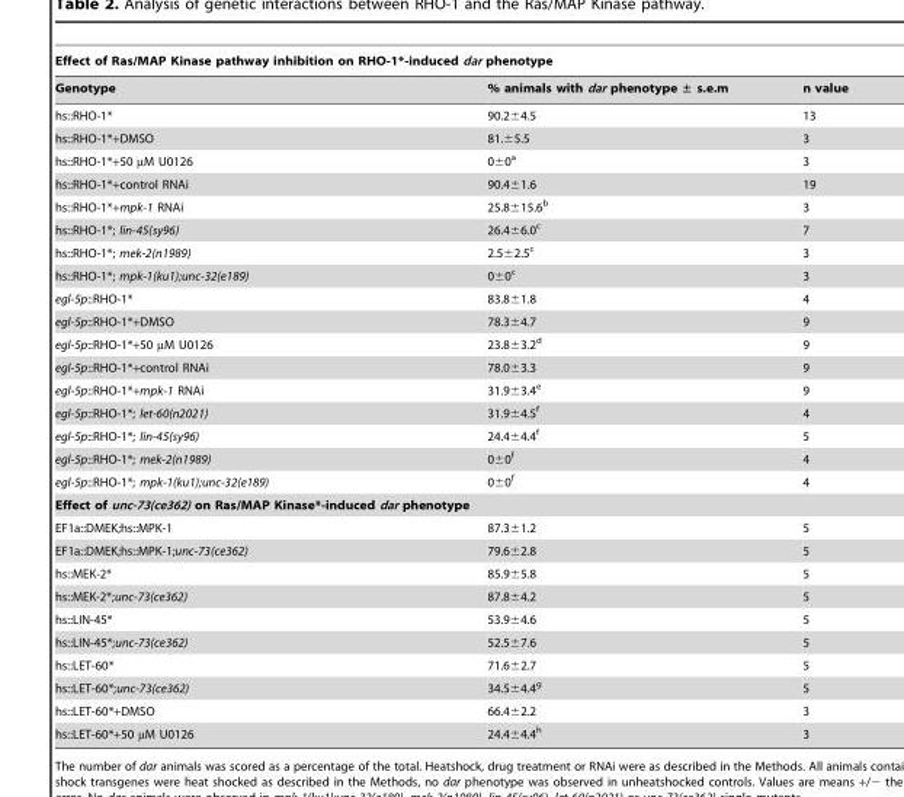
<table><thead><tr><td colspan="3">Effect of Ras/MAP Kinase pathway inhibition on RHO-1*-induced dar phenotype</td></tr><tr><td>Genotype</td><td>% animals with dar phenotype ± s.e.m</td><td>n value</td></tr></thead><tbody><tr><td>hs::RHO-1*</td><td>90.2±4.5</td><td>13</td></tr><tr><td>hs::RHO-1*+DMSO</td><td>81.±5.5</td><td>3</td></tr><tr><td>hs::RHO-1*+50 µM U0126</td><td>0±0<sup>a</sup></td><td>3</td></tr><tr><td>hs::RHO-1*+control RNAi</td><td>90.4±1.6</td><td>19</td></tr><tr><td>hs::RHO-1*+mpk-1 RNAi</td><td>25.8±15.6<sup>b</sup></td><td>3</td></tr><tr><td>hs::RHO-1*; lin-45(sy96)</td><td>26.4±6.0<sup>c</sup></td><td>7</td></tr><tr><td>hs::RHO-1*; mek-2(n1989)</td><td>2.5±2.5<sup>c</sup></td><td>3</td></tr><tr><td>hs::RHO-1*; mpk-1(ku1);unc-32(e189)</td><td>0±0<sup>c</sup></td><td>3</td></tr><tr><td>egl-5p::RHO-1*</td><td>83.8±1.8</td><td>4</td></tr><tr><td>egl-5p::RHO-1*+DMSO</td><td>78.3±4.7</td><td>9</td></tr><tr><td>egl-5p::RHO-1*+50 µM U0126</td><td>23.8±3.2<sup>d</sup></td><td>9</td></tr><tr><td>egl-5p::RHO-1*+control RNAi</td><td>78.0±3.3</td><td>9</td></tr><tr><td>egl-5p::RHO-1*+mpk-1 RNAi</td><td>31.9±3.4<sup>e</sup></td><td>9</td></tr><tr><td>egl-5p::RHO-1*; let-60(n2021)</td><td>31.9±4.5<sup>f</sup></td><td>4</td></tr><tr><td>egl-5p::RHO-1*; lin-45(sy96)</td><td>24.4±4.4<sup>f</sup></td><td>5</td></tr><tr><td>egl-5p::RHO-1*; mek-2(n1989)</td><td>0±0<sup>f</sup></td><td>4</td></tr><tr><td>egl-5p::RHO-1*; mpk-1(ku1);unc-32(e189)</td><td>0±0<sup>f</sup></td><td>4</td></tr><tr><td colspan="3">Effect of unc-73(ce362) on Ras/MAP Kinase*-induced dar phenotype</td></tr><tr><td>EF1a::DMEK;hs::MPK-1</td><td>87.3±1.2</td><td>5</td></tr><tr><td>EF1a::DMEK;hs::MPK-1;unc-73(ce362)</td><td>79.6±2.8</td><td>5</td></tr><tr><td>hs::MEK-2*</td><td>85.9±5.8</td><td>5</td></tr><tr><td>hs::MEK-2*;unc-73(ce362)</td><td>87.8±4.2</td><td>5</td></tr><tr><td>hs::LIN-45*</td><td>53.9±4.6</td><td>5</td></tr><tr><td>hs::LIN-45*;unc-73(ce362)</td><td>52.5±7.6</td><td>5</td></tr><tr><td>hs::LET-60*</td><td>71.6±2.7</td><td>5</td></tr><tr><td>hs::LET-60*;unc-73(ce362)</td><td>34.5±4.4<sup>g</sup></td><td>5</td></tr><tr><td>hs::LET-60*+DMSO</td><td>66.4±2.2</td><td>3</td></tr><tr><td>hs::LET-60*+50 µM U0126</td><td>24.4±4.4<sup>h</sup></td><td>3</td></tr></tbody></table>